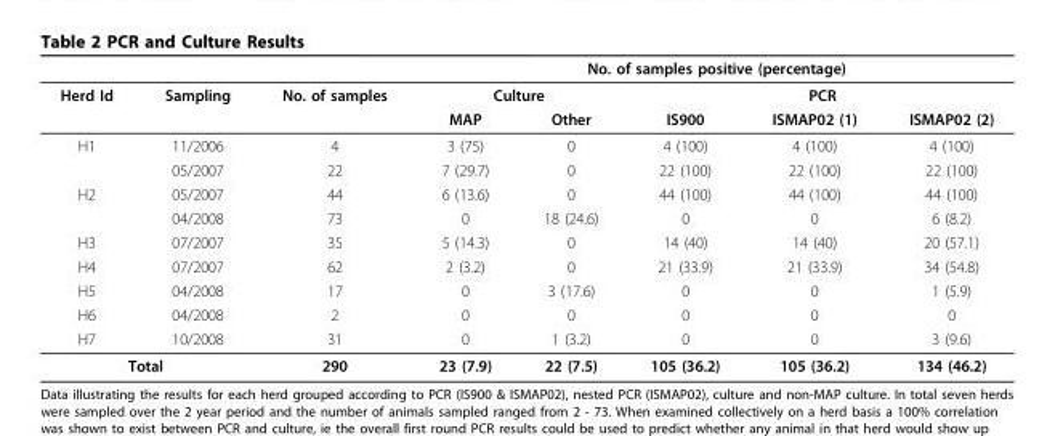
<table><thead><tr><td rowspan="3">Herd Id</td><td rowspan="3">Sampling</td><td rowspan="3">No. of samples</td><td colspan="5">No. of samples positive (percentage)</td></tr><tr><td colspan="2">Culture</td><td colspan="3">PCR</td></tr><tr><td>MAP</td><td>Other</td><td>IS900</td><td>ISMAP02 (1)</td><td>ISMAP02 (2)</td></tr></thead><tbody><tr><td rowspan="2">H1</td><td>11/2006</td><td>4</td><td>3 (75)</td><td>0</td><td>4 (100)</td><td>4 (100)</td><td>4 (100)</td></tr><tr><td>05/2007</td><td>22</td><td>7 (29.7)</td><td>0</td><td>22 (100)</td><td>22 (100)</td><td>22 (100)</td></tr><tr><td rowspan="2">H2</td><td>05/2007</td><td>44</td><td>6 (13.6)</td><td>0</td><td>44 (100)</td><td>44 (100)</td><td>44 (100)</td></tr><tr><td>04/2008</td><td>73</td><td>0</td><td>18 (24.6)</td><td>0</td><td>0</td><td>6 (8.2)</td></tr><tr><td>H3</td><td>07/2007</td><td>35</td><td>5 (14.3)</td><td>0</td><td>14 (40)</td><td>14 (40)</td><td>20 (57.1)</td></tr><tr><td>H4</td><td>07/2007</td><td>62</td><td>2 (3.2)</td><td>0</td><td>21 (33.9)</td><td>21 (33.9)</td><td>34 (54.8)</td></tr><tr><td>H5</td><td>04/2008</td><td>17</td><td>0</td><td>3 (17.6)</td><td>0</td><td>0</td><td>1 (5.9)</td></tr><tr><td>H6</td><td>04/2008</td><td>2</td><td>0</td><td>0</td><td>0</td><td>0</td><td>0</td></tr><tr><td>H7</td><td>10/2008</td><td>31</td><td>0</td><td>1 (3.2)</td><td>0</td><td>0</td><td>3 (9.6)</td></tr><tr><td colspan="2">Total</td><td>290</td><td>23 (7.9)</td><td>22 (7.5)</td><td>105 (36.2)</td><td>105 (36.2)</td><td>134 (46.2)</td></tr></tbody></table>